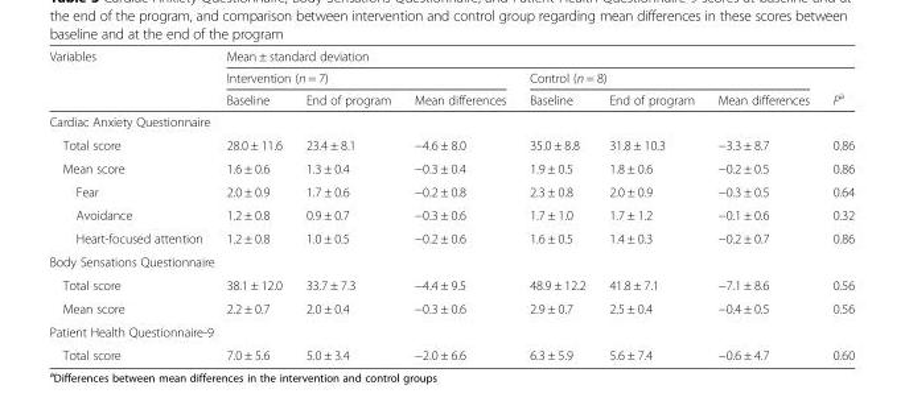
<table><thead><tr><td rowspan="3">Variables</td><td colspan="7">Mean ± standard deviation</td></tr><tr><td colspan="3">Intervention (n = 7)</td><td colspan="3">Control (n = 8)</td><td rowspan="2">P<sup>a</sup></td></tr><tr><td>Baseline</td><td>End of program</td><td>Mean differences</td><td>Baseline</td><td>End of program</td><td>Mean differences</td></tr></thead><tbody><tr><td colspan="8">Cardiac Anxiety Questionnaire</td></tr><tr><td>Total score</td><td>28.0 ± 11.6</td><td>23.4 ± 8.1</td><td>−4.6 ± 8.0</td><td>35.0 ± 8.8</td><td>31.8 ± 10.3</td><td>−3.3 ± 8.7</td><td>0.86</td></tr><tr><td>Mean score</td><td>1.6 ± 0.6</td><td>1.3 ± 0.4</td><td>−0.3 ± 0.4</td><td>1.9 ± 0.5</td><td>1.8 ± 0.6</td><td>−0.2 ± 0.5</td><td>0.86</td></tr><tr><td>Fear</td><td>2.0 ± 0.9</td><td>1.7 ± 0.6</td><td>−0.2 ± 0.8</td><td>2.3 ± 0.8</td><td>2.0 ± 0.9</td><td>−0.3 ± 0.5</td><td>0.64</td></tr><tr><td>Avoidance</td><td>1.2 ± 0.8</td><td>0.9 ± 0.7</td><td>−0.3 ± 0.6</td><td>1.7 ± 1.0</td><td>1.7 ± 1.2</td><td>−0.1 ± 0.6</td><td>0.32</td></tr><tr><td>Heart-focused attention</td><td>1.2 ± 0.8</td><td>1.0 ± 0.5</td><td>−0.2 ± 0.6</td><td>1.6 ± 0.5</td><td>1.4 ± 0.3</td><td>−0.2 ± 0.7</td><td>0.86</td></tr><tr><td colspan="8">Body Sensations Questionnaire</td></tr><tr><td>Total score</td><td>38.1 ± 12.0</td><td>33.7 ± 7.3</td><td>−4.4 ± 9.5</td><td>48.9 ± 12.2</td><td>41.8 ± 7.1</td><td>−7.1 ± 8.6</td><td>0.56</td></tr><tr><td>Mean score</td><td>2.2 ± 0.7</td><td>2.0 ± 0.4</td><td>−0.3 ± 0.6</td><td>2.9 ± 0.7</td><td>2.5 ± 0.4</td><td>−0.4 ± 0.5</td><td>0.56</td></tr><tr><td colspan="8">Patient Health Questionnaire-9</td></tr><tr><td>Total score</td><td>7.0 ± 5.6</td><td>5.0 ± 3.4</td><td>−2.0 ± 6.6</td><td>6.3 ± 5.9</td><td>5.6 ± 7.4</td><td>−0.6 ± 4.7</td><td>0.60</td></tr></tbody></table>